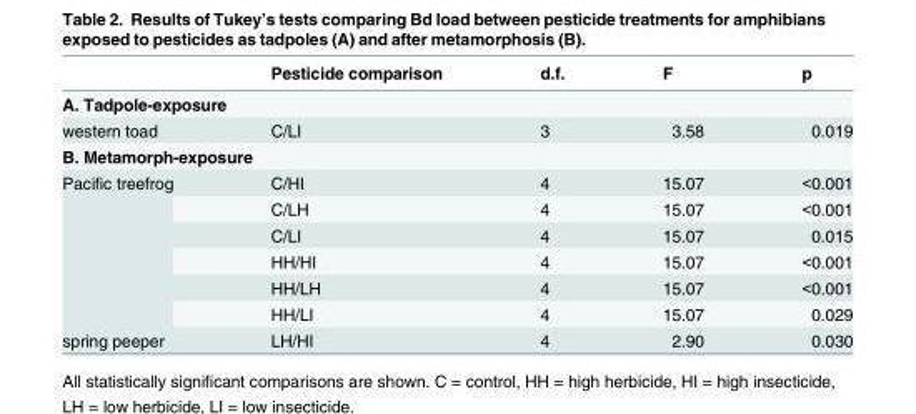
<table><thead><tr><td></td><td>Pesticide comparison</td><td>d.f.</td><td>F</td><td>p</td></tr></thead><tbody><tr><td colspan="5">A. Tadpole-exposure</td></tr><tr><td>western toad</td><td>C/LI</td><td>3</td><td>3.58</td><td>0.019</td></tr><tr><td colspan="5">B. Metamorph-exposure</td></tr><tr><td rowspan="6">Pacific treefrog</td><td>C/HI</td><td>4</td><td>15.07</td><td>&lt;0.001</td></tr><tr><td>C/LH</td><td>4</td><td>15.07</td><td>&lt;0.001</td></tr><tr><td>C/LI</td><td>4</td><td>15.07</td><td>0.015</td></tr><tr><td>HH/HI</td><td>4</td><td>15.07</td><td>&lt;0.001</td></tr><tr><td>HH/LH</td><td>4</td><td>15.07</td><td>&lt;0.001</td></tr><tr><td>HH/LI</td><td>4</td><td>15.07</td><td>0.029</td></tr><tr><td>spring peeper</td><td>LH/HI</td><td>4</td><td>2.90</td><td>0.030</td></tr></tbody></table>